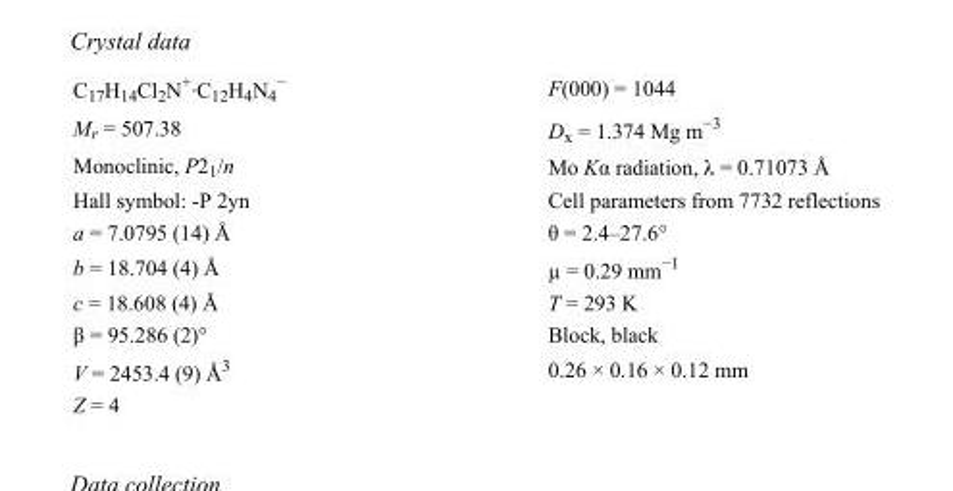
<table><tbody><tr><td>C<sub>17</sub>H<sub>14</sub>Cl<sub>2</sub>N<sup>+</sup>·C<sub>12</sub>H<sub>4</sub>N<sub>4</sub> <sup>−</sup></td><td>F(000) = 1044</td></tr><tr><td>M<sub>r</sub> = 507.38</td><td>D<sub>x</sub> = 1.374 Mg m<sup>−3</sup></td></tr><tr><td>Monoclinic, P2<sub>1</sub>/n</td><td>Mo Kα radiation, λ = 0.71073 Å</td></tr><tr><td>Hall symbol: -P 2yn</td><td>Cell parameters from 7732 reflections</td></tr><tr><td>a = 7.0795 (14) Å</td><td>θ = 2.4–27.6°</td></tr><tr><td>b = 18.704 (4) Å</td><td>µ = 0.29 mm<sup>−1</sup></td></tr><tr><td>c = 18.608 (4) Å</td><td>T = 293 K</td></tr><tr><td>β = 95.286 (2)°</td><td>Block, black</td></tr><tr><td>V = 2453.4 (9) Å<sup>3</sup></td><td>0.26 × 0.16 × 0.12 mm</td></tr><tr><td>Z = 4</td><td></td></tr></tbody></table>